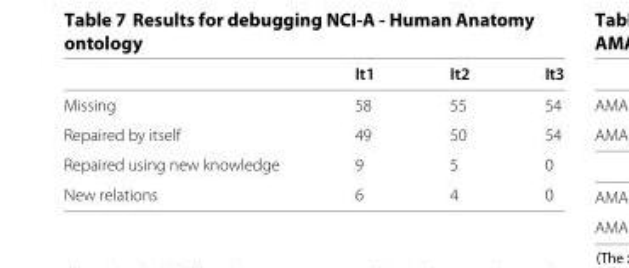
<table><thead><tr><td></td><td>It1</td><td>It2</td><td>It3</td></tr></thead><tbody><tr><td>Missing</td><td>58</td><td>55</td><td>54</td></tr><tr><td>Repaired by itself</td><td>49</td><td>50</td><td>54</td></tr><tr><td>Repaired using new knowledge</td><td>9</td><td>5</td><td>0</td></tr><tr><td>New relations</td><td>6</td><td>4</td><td>0</td></tr></tbody></table>